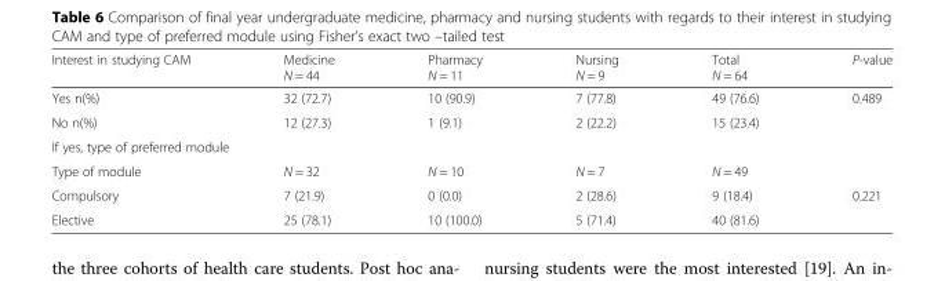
<table><thead><tr><td>Interest in studying CAM</td><td>Medicine N = 44</td><td>Pharmacy N = 11</td><td>Nursing N = 9</td><td>Total N = 64</td><td>P-value</td></tr></thead><tbody><tr><td>Yes n(%)</td><td>32 (72.7)</td><td>10 (90.9)</td><td>7 (77.8)</td><td>49 (76.6)</td><td rowspan="2">0.489</td></tr><tr><td>No n(%)</td><td>12 (27.3)</td><td>1 (9.1)</td><td>2 (22.2)</td><td>15 (23.4)</td></tr><tr><td colspan="6">If yes, type of preferred module</td></tr><tr><td>Type of module</td><td>N = 32</td><td>N = 10</td><td>N = 7</td><td>N = 49</td><td></td></tr><tr><td>Compulsory</td><td>7 (21.9)</td><td>0 (0.0)</td><td>2 (28.6)</td><td>9 (18.4)</td><td rowspan="2">0.221</td></tr><tr><td>Elective</td><td>25 (78.1)</td><td>10 (100.0)</td><td>5 (71.4)</td><td>40 (81.6)</td></tr></tbody></table>